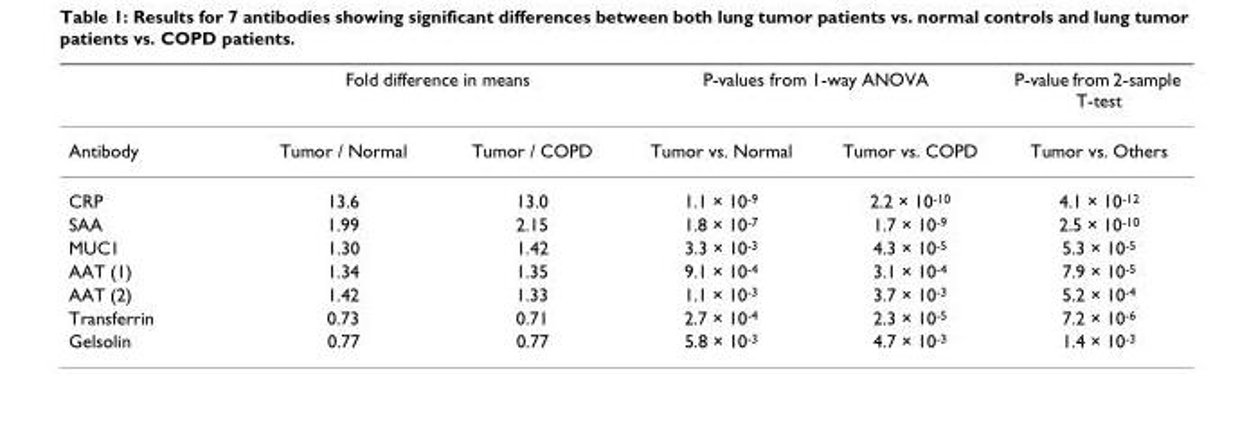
<table><thead><tr><td rowspan="2">Antibody</td><td colspan="2">Fold difference in means</td><td colspan="2">P-values from 1-way ANOVA</td><td rowspan="2">P-value from 2-sample T-test Tumor vs. Others</td></tr><tr><td>Tumor / Normal</td><td>Tumor / COPD</td><td>Tumor vs. Normal</td><td>Tumor vs. COPD</td></tr></thead><tbody><tr><td>CRP</td><td>13.6</td><td>13.0</td><td>1.1 × 10-9</td><td>2.2 × 10-10</td><td>4.1 × 10-12</td></tr><tr><td>SAA</td><td>1.99</td><td>2.15</td><td>1.8 × 10-7</td><td>1.7 × 10-9</td><td>2.5 × 10-10</td></tr><tr><td>MUC1</td><td>1.30</td><td>1.42</td><td>3.3 × 10-3</td><td>4.3 × 10-5</td><td>5.3 × 10-5</td></tr><tr><td>AAT (1)</td><td>1.34</td><td>1.35</td><td>9.1 × 10-4</td><td>3.1 × 10-4</td><td>7.9 × 10-5</td></tr><tr><td>AAT (2)</td><td>1.42</td><td>1.33</td><td>1.1 × 10-3</td><td>3.7 × 10-3</td><td>5.2 × 10-4</td></tr><tr><td>Transferrin</td><td>0.73</td><td>0.71</td><td>2.7 × 10-4</td><td>2.3 × 10-5</td><td>7.2 × 10-6</td></tr><tr><td>Gelsolin</td><td>0.77</td><td>0.77</td><td>5.8 × 10-3</td><td>4.7 × 10-3</td><td>1.4 × 10-3</td></tr></tbody></table>